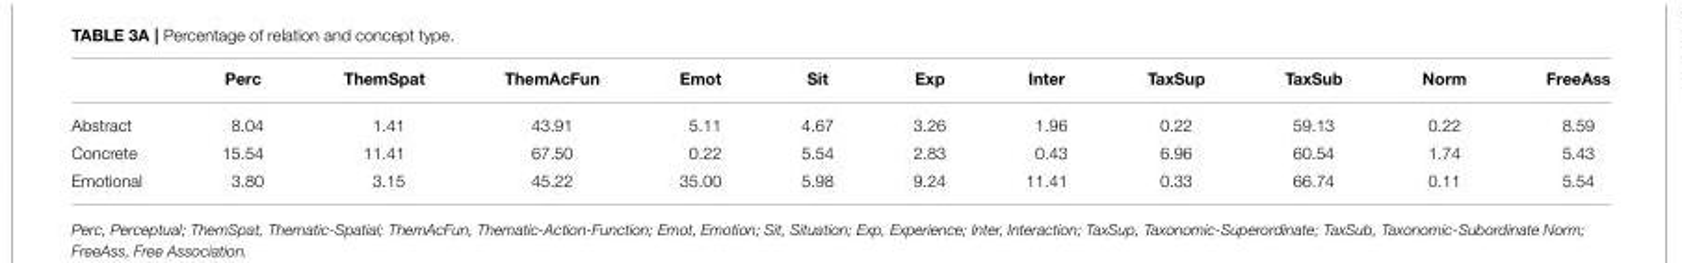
<table><thead><tr><td></td><td>Perc</td><td>ThemSpat</td><td>ThemAcFun</td><td>Emot</td><td>Sit</td><td>Exp</td><td>Inter</td><td>TaxSup</td><td>TaxSub</td><td>Norm</td><td>FreeAss</td></tr></thead><tbody><tr><td>Abstract</td><td>8.04</td><td>1.41</td><td>43.91</td><td>5.11</td><td>4.67</td><td>3.26</td><td>1.96</td><td>0.22</td><td>59.13</td><td>0.22</td><td>8.59</td></tr><tr><td>Concrete</td><td>15.54</td><td>11.41</td><td>67.50</td><td>0.22</td><td>5.54</td><td>2.83</td><td>0.43</td><td>6.96</td><td>60.54</td><td>1.74</td><td>5.43</td></tr><tr><td>Emotional</td><td>3.80</td><td>3.15</td><td>45.22</td><td>35.00</td><td>5.98</td><td>9.24</td><td>11.41</td><td>0.33</td><td>66.74</td><td>0.11</td><td>5.54</td></tr></tbody></table>